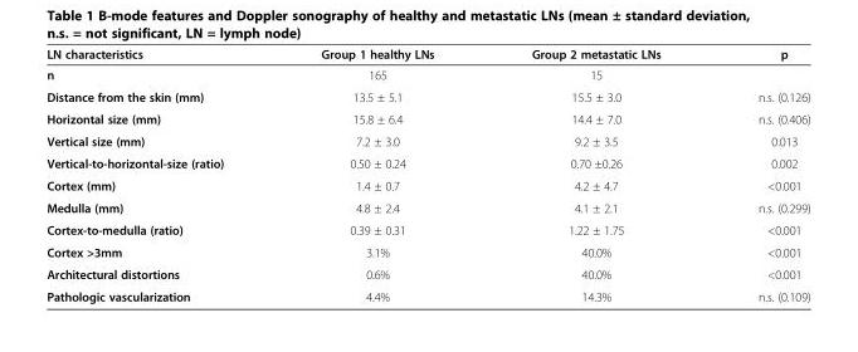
<table><thead><tr><td>LN characteristics</td><td>Group 1 healthy LNs</td><td>Group 2 metastatic LNs</td><td>p</td></tr></thead><tbody><tr><td>n</td><td>165</td><td>15</td><td></td></tr><tr><td>Distance from the skin (mm)</td><td>13.5 ± 5.1</td><td>15.5 ± 3.0</td><td>n.s. (0.126)</td></tr><tr><td>Horizontal size (mm)</td><td>15.8 ± 6.4</td><td>14.4 ± 7.0</td><td>n.s. (0.406)</td></tr><tr><td>Vertical size (mm)</td><td>7.2 ± 3.0</td><td>9.2 ± 3.5</td><td>0.013</td></tr><tr><td>Vertical-to-horizontal-size (ratio)</td><td>0.50 ± 0.24</td><td>0.70 ±0.26</td><td>0.002</td></tr><tr><td>Cortex (mm)</td><td>1.4 ± 0.7</td><td>4.2 ± 4.7</td><td>&lt;0.001</td></tr><tr><td>Medulla (mm)</td><td>4.8 ± 2.4</td><td>4.1 ± 2.1</td><td>n.s. (0.299)</td></tr><tr><td>Cortex-to-medulla (ratio)</td><td>0.39 ± 0.31</td><td>1.22 ± 1.75</td><td>&lt;0.001</td></tr><tr><td>Cortex &gt;3mm</td><td>3.1%</td><td>40.0%</td><td>&lt;0.001</td></tr><tr><td>Architectural distortions</td><td>0.6%</td><td>40.0%</td><td>&lt;0.001</td></tr><tr><td>Pathologic vascularization</td><td>4.4%</td><td>14.3%</td><td>n.s. (0.109)</td></tr></tbody></table>